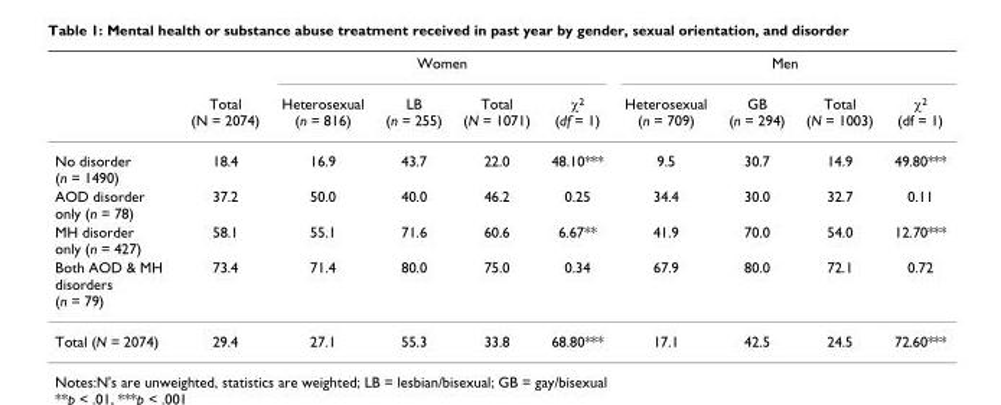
<table><thead><tr><td rowspan="2"></td><td rowspan="2">Total (N = 2074)</td><td colspan="4">Women</td><td colspan="4">Men</td></tr><tr><td>Heterosexual (n = 816)</td><td>LB (n = 255)</td><td>Total (N = 1071)</td><td>χ<sup>2</sup> (df = 1)</td><td>Heterosexual (n = 709)</td><td>GB (n = 294)</td><td>Total (N = 1003)</td><td>χ<sup>2</sup> (df = 1)</td></tr></thead><tbody><tr><td>No disorder (n = 1490)</td><td>18.4</td><td>16.9</td><td>43.7</td><td>22.0</td><td>48.10***</td><td>9.5</td><td>30.7</td><td>14.9</td><td>49.80***</td></tr><tr><td>AOD disorder only (n = 78)</td><td>37.2</td><td>50.0</td><td>40.0</td><td>46.2</td><td>0.25</td><td>34.4</td><td>30.0</td><td>32.7</td><td>0.11</td></tr><tr><td>MH disorder only (n = 427)</td><td>58.1</td><td>55.1</td><td>71.6</td><td>60.6</td><td>6.67**</td><td>41.9</td><td>70.0</td><td>54.0</td><td>12.70***</td></tr><tr><td>Both AOD &amp; MH disorders (n = 79)</td><td>73.4</td><td>71.4</td><td>80.0</td><td>75.0</td><td>0.34</td><td>67.9</td><td>80.0</td><td>72.1</td><td>0.72</td></tr><tr><td>Total (N = 2074)</td><td>29.4</td><td>27.1</td><td>55.3</td><td>33.8</td><td>68.80***</td><td>17.1</td><td>42.5</td><td>24.5</td><td>72.60***</td></tr></tbody></table>